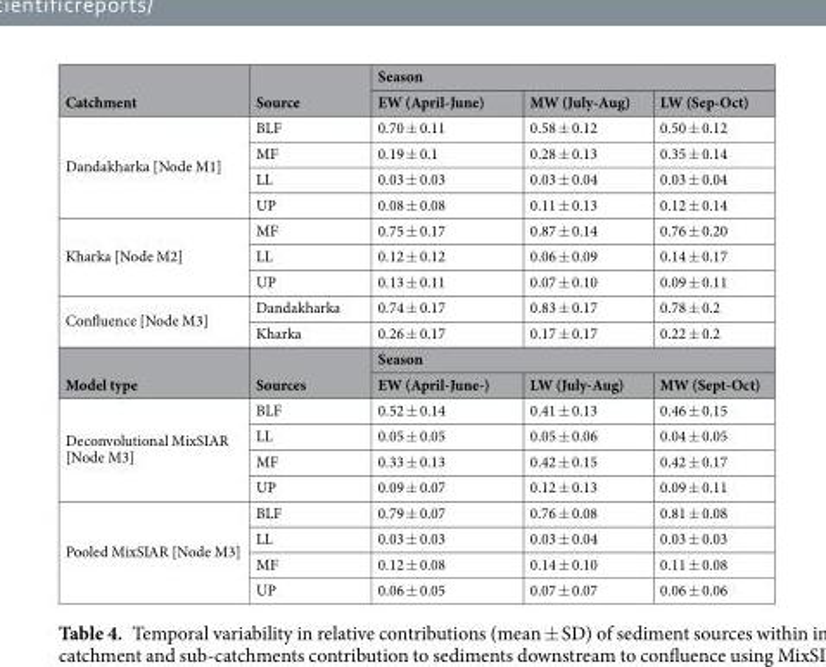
<table><thead><tr><td rowspan="2">Catchment</td><td rowspan="2">Source</td><td colspan="3">Season</td></tr><tr><td>EW (April-June)</td><td>MW (July-Aug)</td><td>LW (Sep-Oct)</td></tr></thead><tbody><tr><td rowspan="4">Dandakharka [Node M1]</td><td>BLF</td><td>0.70 ± 0.11</td><td>0.58 ± 0.12</td><td>0.50 ± 0.12</td></tr><tr><td>MF</td><td>0.19 ± 0.1</td><td>0.28 ± 0.13</td><td>0.35 ± 0.14</td></tr><tr><td>LL</td><td>0.03 ± 0.03</td><td>0.03 ± 0.04</td><td>0.03 ± 0.04</td></tr><tr><td>UP</td><td>0.08 ± 0.08</td><td>0.11 ± 0.13</td><td>0.12 ± 0.14</td></tr><tr><td rowspan="3">Kharka [Node M2]</td><td>MF</td><td>0.75 ± 0.17</td><td>0.87 ± 0.14</td><td>0.76 ± 0.20</td></tr><tr><td>LL</td><td>0.12 ± 0.12</td><td>0.06 ± 0.09</td><td>0.14 ± 0.17</td></tr><tr><td>UP</td><td>0.13 ± 0.11</td><td>0.07 ± 0.10</td><td>0.09 ± 0.11</td></tr><tr><td rowspan="2">Confluence [Node M3]</td><td>Dandakharka</td><td>0.74 ± 0.17</td><td>0.83 ± 0.17</td><td>0.78 ± 0.2</td></tr><tr><td>Kharka</td><td>0.26 ± 0.17</td><td>0.17 ± 0.17</td><td>0.22 ± 0.2</td></tr><tr><td rowspan="2">Model type</td><td rowspan="2">Sources</td><td colspan="3">Season</td></tr><tr><td>EW (April-June-)</td><td>LW (July-Aug)</td><td>MW (Sept-Oct)</td></tr><tr><td rowspan="4">Deconvolutional MixSIAR [Node M3]</td><td>BLF</td><td>0.52 ± 0.14</td><td>0.41 ± 0.13</td><td>0.46 ± 0.15</td></tr><tr><td>LL</td><td>0.05 ± 0.05</td><td>0.05 ± 0.06</td><td>0.04 ± 0.05</td></tr><tr><td>MF</td><td>0.33 ± 0.13</td><td>0.42 ± 0.15</td><td>0.42 ± 0.17</td></tr><tr><td>UP</td><td>0.09 ± 0.07</td><td>0.12 ± 0.13</td><td>0.09 ± 0.11</td></tr><tr><td rowspan="4">Pooled MixSIAR [Node M3]</td><td>BLF</td><td>0.79 ± 0.07</td><td>0.76 ± 0.08</td><td>0.81 ± 0.08</td></tr><tr><td>LL</td><td>0.03 ± 0.03</td><td>0.03 ± 0.04</td><td>0.03 ± 0.03</td></tr><tr><td>MF</td><td>0.12 ± 0.08</td><td>0.14 ± 0.10</td><td>0.11 ± 0.08</td></tr><tr><td>UP</td><td>0.06 ± 0.05</td><td>0.07 ± 0.07</td><td>0.06 ± 0.06</td></tr></tbody></table>